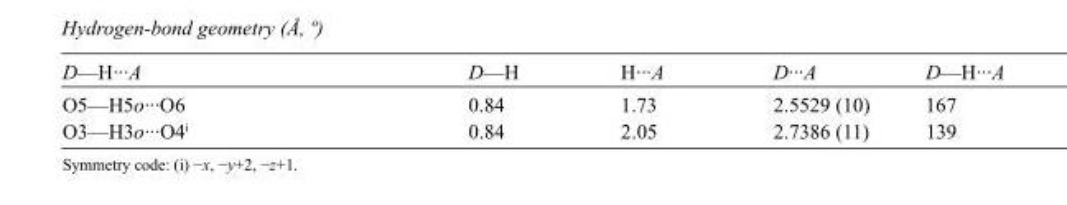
<table><tbody><tr><td>D—H···A</td><td>D—H</td><td>H···A</td><td>D···A</td><td>D—H···A</td></tr><tr><td>O5—H5o···O6</td><td>0.84</td><td>1.73</td><td>2.5529 (10)</td><td>167</td></tr><tr><td>O3—H3o···O4<sup>i</sup></td><td>0.84</td><td>2.05</td><td>2.7386 (11)</td><td>139</td></tr></tbody></table>